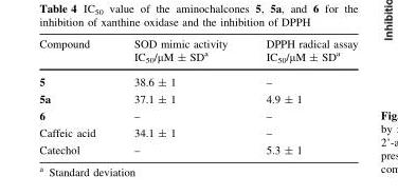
<table><thead><tr><td>Compound</td><td>SOD mimic activity IC<sub>50</sub>/μM ± SD<sup>a</sup></td><td>DPPH radical assay IC<sub>50</sub>/μM ± SD<sup>a</sup></td></tr></thead><tbody><tr><td>5</td><td>38.6 ± 1</td><td>–</td></tr><tr><td>5a</td><td>37.1 ± 1</td><td>4.9 ± 1</td></tr><tr><td>6</td><td>–</td><td>–</td></tr><tr><td>Caffeic acid</td><td>34.1 ± 1</td><td>–</td></tr><tr><td>Catechol</td><td>–</td><td>5.3 ± 1</td></tr></tbody></table>